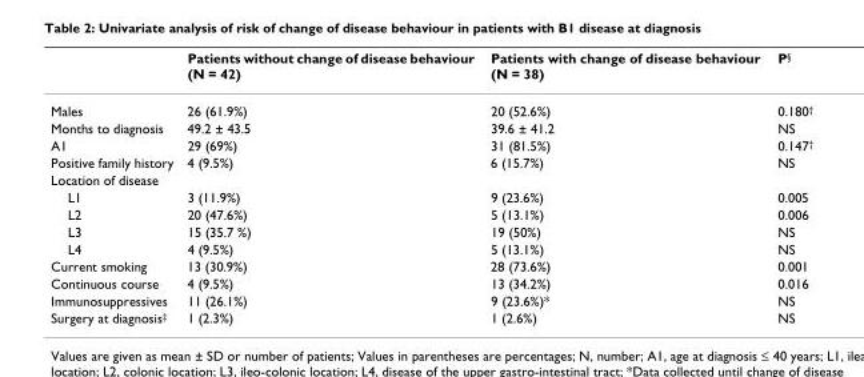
<table><thead><tr><td></td><td>Patients without change of disease behaviour (N = 42)</td><td>Patients with change of disease behaviour (N = 38)</td><td>P§</td></tr></thead><tbody><tr><td>Males</td><td>26 (61.9%)</td><td>20 (52.6%)</td><td>0.180†</td></tr><tr><td>Months to diagnosis</td><td>49.2 ± 43.5</td><td>39.6 ± 41.2</td><td>NS</td></tr><tr><td>A1</td><td>29 (69%)</td><td>31 (81.5%)</td><td>0.147†</td></tr><tr><td>Positive family history</td><td>4 (9.5%)</td><td>6 (15.7%)</td><td>NS</td></tr><tr><td colspan="4">Location of disease</td></tr><tr><td>L1</td><td>3 (11.9%)</td><td>9 (23.6%)</td><td>0.005</td></tr><tr><td>L2</td><td>20 (47.6%)</td><td>5 (13.1%)</td><td>0.006</td></tr><tr><td>L3</td><td>15 (35.7 %)</td><td>19 (50%)</td><td>NS</td></tr><tr><td>L4</td><td>4 (9.5%)</td><td>5 (13.1%)</td><td>NS</td></tr><tr><td>Current smoking</td><td>13 (30.9%)</td><td>28 (73.6%)</td><td>0.001</td></tr><tr><td>Continuous course</td><td>4 (9.5%)</td><td>13 (34.2%)</td><td>0.016</td></tr><tr><td>Immunosuppressives</td><td>11 (26.1%)</td><td>9 (23.6%)*</td><td>NS</td></tr><tr><td>Surgery at diagnosis‡</td><td>1 (2.3%)</td><td>1 (2.6%)</td><td>NS</td></tr></tbody></table>